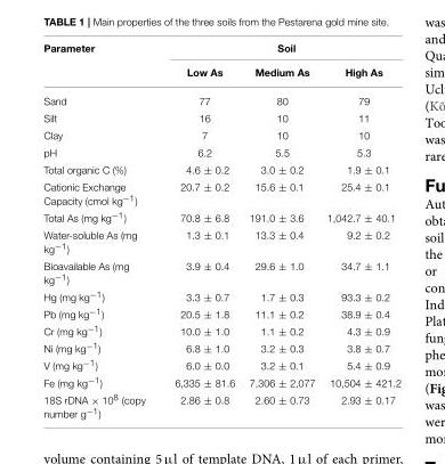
<table><thead><tr><td rowspan="2">Parameter</td><td colspan="3">Soil</td></tr><tr><td>Low As</td><td>Medium As</td><td>High As</td></tr></thead><tbody><tr><td>Sand</td><td>77</td><td>80</td><td>79</td></tr><tr><td>Silt</td><td>16</td><td>10</td><td>11</td></tr><tr><td>Clay</td><td>7</td><td>10</td><td>10</td></tr><tr><td>pH</td><td>6.2</td><td>5.5</td><td>5.3</td></tr><tr><td>Total organic C (%)</td><td>4.6 ± 0.2</td><td>3.0 ± 0.2</td><td>1.9 ± 0.1</td></tr><tr><td>Cationic Exchange Capacity (cmol kg<sup>−1</sup>)</td><td>20.7 ± 0.2</td><td>15.6 ± 0.1</td><td>25.4 ± 0.1</td></tr><tr><td>Total As (mg kg<sup>−1</sup>)</td><td>70.8 ± 6.8</td><td>191.0 ± 3.6</td><td>1,042.7 ± 40.1</td></tr><tr><td>Water-soluble As (mg kg<sup>−1</sup>)</td><td>1.3 ± 0.1</td><td>13.3 ± 0.4</td><td>9.2 ± 0.2</td></tr><tr><td>Bioavailable As (mg kg<sup>−1</sup>)</td><td>3.9 ± 0.4</td><td>29.6 ± 1.0</td><td>34.7 ± 1.1</td></tr><tr><td>Hg (mg kg<sup>−1</sup>)</td><td>3.3 ± 0.7</td><td>1.7 ± 0.3</td><td>93.3 ± 0.2</td></tr><tr><td>Pb (mg kg<sup>−1</sup>)</td><td>20.5 ± 1.8</td><td>11.1 ± 0.2</td><td>38.9 ± 0.4</td></tr><tr><td>Cr (mg kg<sup>−1</sup>)</td><td>10.0 ± 1.0</td><td>1.1 ± 0.2</td><td>4.3 ± 0.9</td></tr><tr><td>Ni (mg kg<sup>−1</sup>)</td><td>6.8 ± 1.0</td><td>3.2 ± 0.3</td><td>3.8 ± 0.7</td></tr><tr><td>V (mg kg<sup>−1</sup>)</td><td>6.0 ± 0.0</td><td>3.2 ± 0.1</td><td>5.4 ± 0.9</td></tr><tr><td>Fe (mg kg<sup>−1</sup>)</td><td>6,335 ± 81.6</td><td>7,306 ± 2,077</td><td>10,504 ± 421.2</td></tr><tr><td>18S rDNA × 10<sup>8</sup> (copy number g<sup>−1</sup>)</td><td>2.86 ± 0.8</td><td>2.60 ± 0.73</td><td>2.93 ± 0.17</td></tr></tbody></table>